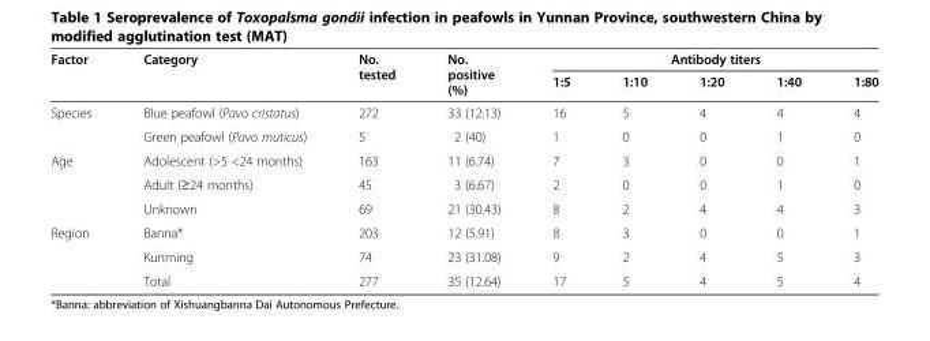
<table><thead><tr><td rowspan="2">Factor</td><td rowspan="2">Category</td><td rowspan="2">No. tested</td><td rowspan="2">No. positive (%)</td><td colspan="5">Antibody titers</td></tr><tr><td>1:5</td><td>1:10</td><td>1:20</td><td>1:40</td><td>1:80</td></tr></thead><tbody><tr><td rowspan="2">Species</td><td>Blue peafowl (Pavo cristatus)</td><td>272</td><td>33 (12.13)</td><td>16</td><td>5</td><td>4</td><td>4</td><td>4</td></tr><tr><td>Green peafowl (Pavo muticus)</td><td>5</td><td>2 (40)</td><td>1</td><td>0</td><td>0</td><td>1</td><td>0</td></tr><tr><td rowspan="3">Age</td><td>Adolescent (&gt;5 &lt;24 months)</td><td>163</td><td>11 (6.74)</td><td>7</td><td>3</td><td>0</td><td>0</td><td>1</td></tr><tr><td>Adult (≥24 months)</td><td>45</td><td>3 (6.67)</td><td>2</td><td>0</td><td>0</td><td>1</td><td>0</td></tr><tr><td>Unknown</td><td>69</td><td>21 (30.43)</td><td>8</td><td>2</td><td>4</td><td>4</td><td>3</td></tr><tr><td rowspan="3">Region</td><td>Banna*</td><td>203</td><td>12 (5.91)</td><td>8</td><td>3</td><td>0</td><td>0</td><td>1</td></tr><tr><td>Kunming</td><td>74</td><td>23 (31.08)</td><td>9</td><td>2</td><td>4</td><td>5</td><td>3</td></tr><tr><td>Total</td><td>277</td><td>35 (12.64)</td><td>17</td><td>5</td><td>4</td><td>5</td><td>4</td></tr></tbody></table>